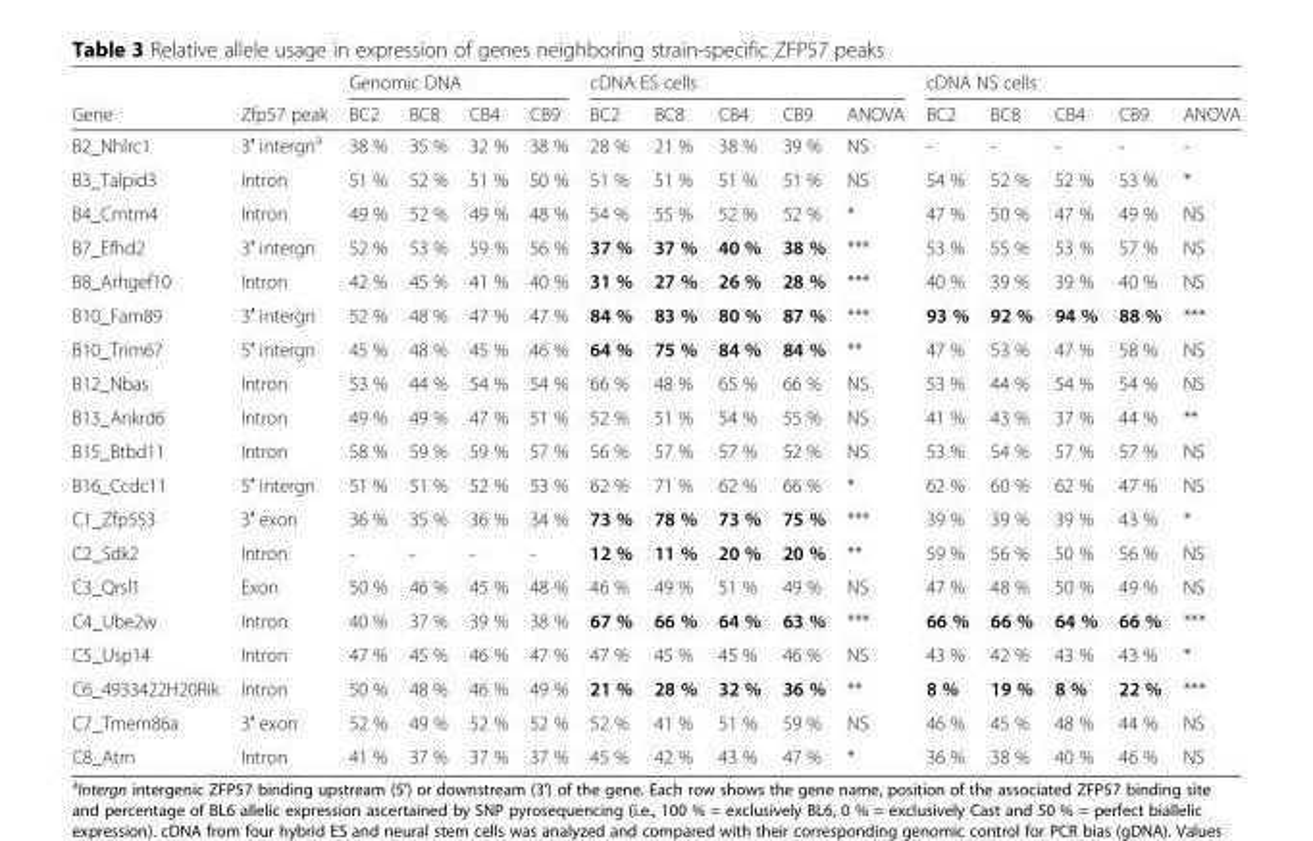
<table><thead><tr><td rowspan="2">Gene</td><td rowspan="2">Zfp57 peak</td><td colspan="4">Genomic DNA</td><td colspan="5">cDNA ES cells</td><td colspan="5">cDNA NS cells</td></tr><tr><td>BC2</td><td>BC8</td><td>CB4</td><td>CB9</td><td>BC2</td><td>BC8</td><td>CB4</td><td>CB9</td><td>ANOVA</td><td>BC2</td><td>BC8</td><td>CB4</td><td>CB9</td><td>ANOVA</td></tr></thead><tbody><tr><td>B2_Nhlrc1</td><td>3′ intergn<sup>a</sup></td><td>38 %</td><td>35 %</td><td>32 %</td><td>38 %</td><td>28 %</td><td>21 %</td><td>38 %</td><td>39 %</td><td>NS</td><td>-</td><td>-</td><td>-</td><td>-</td><td>-</td></tr><tr><td>B3_Talpid3</td><td>Intron</td><td>51 %</td><td>52 %</td><td>51 %</td><td>50 %</td><td>51 %</td><td>51 %</td><td>51 %</td><td>51 %</td><td>NS</td><td>54 %</td><td>52 %</td><td>52 %</td><td>53 %</td><td>*</td></tr><tr><td>B4_Cmtm4</td><td>Intron</td><td>49 %</td><td>52 %</td><td>49 %</td><td>48 %</td><td>54 %</td><td>55 %</td><td>52 %</td><td>52 %</td><td>*</td><td>47 %</td><td>50 %</td><td>47 %</td><td>49 %</td><td>NS</td></tr><tr><td>B7_Efhd2</td><td>3′ intergn</td><td>52 %</td><td>53 %</td><td>59 %</td><td>56 %</td><td>37 %</td><td>37 %</td><td>40 %</td><td>38 %</td><td>***</td><td>53 %</td><td>55 %</td><td>53 %</td><td>57 %</td><td>NS</td></tr><tr><td>B8_Arhgef10</td><td>Intron</td><td>42 %</td><td>45 %</td><td>41 %</td><td>40 %</td><td>31 %</td><td>27 %</td><td>26 %</td><td>28 %</td><td>***</td><td>40 %</td><td>39 %</td><td>39 %</td><td>40 %</td><td>NS</td></tr><tr><td>B10_Fam89</td><td>3′ intergn</td><td>52 %</td><td>48 %</td><td>47 %</td><td>47 %</td><td>84 %</td><td>83 %</td><td>80 %</td><td>87 %</td><td>***</td><td>93 %</td><td>92 %</td><td>94 %</td><td>88 %</td><td>***</td></tr><tr><td>B10_Trim67</td><td>5′ intergn</td><td>45 %</td><td>48 %</td><td>45 %</td><td>46 %</td><td>64 %</td><td>75 %</td><td>84 %</td><td>84 %</td><td>**</td><td>47 %</td><td>53 %</td><td>47 %</td><td>58 %</td><td>NS</td></tr><tr><td>B12_Nbas</td><td>Intron</td><td>53 %</td><td>44 %</td><td>54 %</td><td>54 %</td><td>66 %</td><td>48 %</td><td>65 %</td><td>66 %</td><td>NS</td><td>53 %</td><td>44 %</td><td>54 %</td><td>54 %</td><td>NS</td></tr><tr><td>B13_Ankrd6</td><td>Intron</td><td>49 %</td><td>49 %</td><td>47 %</td><td>51 %</td><td>52 %</td><td>51 %</td><td>54 %</td><td>55 %</td><td>NS</td><td>41 %</td><td>43 %</td><td>37 %</td><td>44 %</td><td>**</td></tr><tr><td>B15_Btbd11</td><td>Intron</td><td>58 %</td><td>59 %</td><td>59 %</td><td>57 %</td><td>56 %</td><td>57 %</td><td>57 %</td><td>52 %</td><td>NS</td><td>53 %</td><td>54 %</td><td>57 %</td><td>57 %</td><td>NS</td></tr><tr><td>B16_Ccdc11</td><td>5′ intergn</td><td>51 %</td><td>51 %</td><td>52 %</td><td>53 %</td><td>62 %</td><td>71 %</td><td>62 %</td><td>66 %</td><td>*</td><td>62 %</td><td>60 %</td><td>62 %</td><td>47 %</td><td>NS</td></tr><tr><td>C1_Zfp553</td><td>3′ exon</td><td>36 %</td><td>35 %</td><td>36 %</td><td>34 %</td><td>73 %</td><td>78 %</td><td>73 %</td><td>75 %</td><td>***</td><td>39 %</td><td>39 %</td><td>39 %</td><td>43 %</td><td>*</td></tr><tr><td>C2_Sdk2</td><td>Intron</td><td>-</td><td>-</td><td>-</td><td>-</td><td>12 %</td><td>11 %</td><td>20 %</td><td>20 %</td><td>**</td><td>59 %</td><td>56 %</td><td>50 %</td><td>56 %</td><td>NS</td></tr><tr><td>C3_Qrsl1</td><td>Exon</td><td>50 %</td><td>46 %</td><td>45 %</td><td>48 %</td><td>46 %</td><td>49 %</td><td>51 %</td><td>49 %</td><td>NS</td><td>47 %</td><td>48 %</td><td>50 %</td><td>49 %</td><td>NS</td></tr><tr><td>C4_Ube2w</td><td>Intron</td><td>40 %</td><td>37 %</td><td>39 %</td><td>38 %</td><td>67 %</td><td>66 %</td><td>64 %</td><td>63 %</td><td>***</td><td>66 %</td><td>66 %</td><td>64 %</td><td>66 %</td><td>***</td></tr><tr><td>C5_Usp14</td><td>Intron</td><td>47 %</td><td>45 %</td><td>46 %</td><td>47 %</td><td>47 %</td><td>45 %</td><td>45 %</td><td>46 %</td><td>NS</td><td>43 %</td><td>42 %</td><td>43 %</td><td>43 %</td><td>*</td></tr><tr><td>C6_4933422H20Rik</td><td>Intron</td><td>50 %</td><td>48 %</td><td>46 %</td><td>49 %</td><td>21 %</td><td>28 %</td><td>32 %</td><td>36 %</td><td>**</td><td>8 %</td><td>19 %</td><td>8 %</td><td>22 %</td><td>***</td></tr><tr><td>C7_Tmem86a</td><td>3′ exon</td><td>52 %</td><td>49 %</td><td>52 %</td><td>52 %</td><td>52 %</td><td>41 %</td><td>51 %</td><td>59 %</td><td>NS</td><td>46 %</td><td>45 %</td><td>48 %</td><td>44 %</td><td>NS</td></tr><tr><td>C8_Atrn</td><td>Intron</td><td>41 %</td><td>37 %</td><td>37 %</td><td>37 %</td><td>45 %</td><td>42 %</td><td>43 %</td><td>47 %</td><td>*</td><td>36 %</td><td>38 %</td><td>40 %</td><td>46 %</td><td>NS</td></tr></tbody></table>